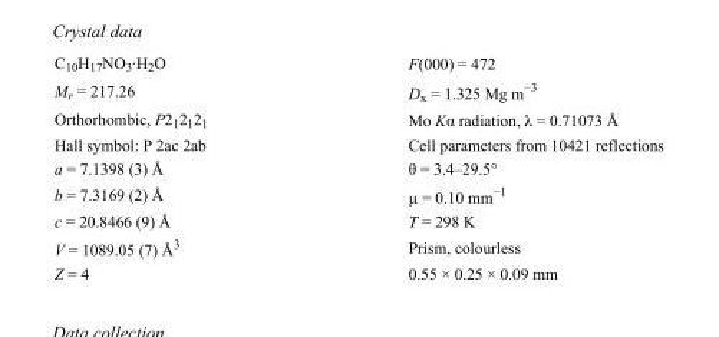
<table><tbody><tr><td>C<sub>10</sub>H<sub>17</sub>NO<sub>3</sub>·H<sub>2</sub>O</td><td>F(000) = 472</td></tr><tr><td>M<sub>r</sub> = 217.26</td><td>D<sub>x</sub> = 1.325 Mg m<sup>−3</sup></td></tr><tr><td>Orthorhombic, P2<sub>1</sub>2<sub>1</sub>2<sub>1</sub></td><td>Mo Kα radiation, λ = 0.71073 Å</td></tr><tr><td>Hall symbol: P 2ac 2ab</td><td>Cell parameters from 10421 reflections</td></tr><tr><td>a = 7.1398 (3) Å</td><td>θ = 3.4–29.5°</td></tr><tr><td>b = 7.3169 (2) Å</td><td>µ = 0.10 mm<sup>−1</sup></td></tr><tr><td>c = 20.8466 (9) Å</td><td>T = 298 K</td></tr><tr><td>V = 1089.05 (7) Å<sup>3</sup></td><td>Prism, colourless</td></tr><tr><td>Z = 4</td><td>0.55 × 0.25 × 0.09 mm</td></tr></tbody></table>